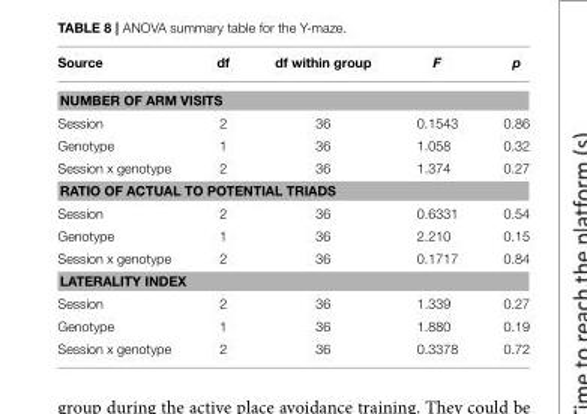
<table><thead><tr><td>Source</td><td>df</td><td>df within group</td><td>F</td><td>p</td></tr></thead><tbody><tr><td colspan="5">NUMBER OF ARM VISITS</td></tr><tr><td>Session</td><td>2</td><td>36</td><td>0.1543</td><td>0.86</td></tr><tr><td>Genotype</td><td>1</td><td>36</td><td>1.058</td><td>0.32</td></tr><tr><td>Session x genotype</td><td>2</td><td>36</td><td>1.374</td><td>0.27</td></tr><tr><td colspan="5">RATIO OF ACTUAL TO POTENTIAL TRIADS</td></tr><tr><td>Session</td><td>2</td><td>36</td><td>0.6331</td><td>0.54</td></tr><tr><td>Genotype</td><td>1</td><td>36</td><td>2.210</td><td>0.15</td></tr><tr><td>Session x genotype</td><td>2</td><td>36</td><td>0.1717</td><td>0.84</td></tr><tr><td colspan="5">LATERALITY INDEX</td></tr><tr><td>Session</td><td>2</td><td>36</td><td>1.339</td><td>0.27</td></tr><tr><td>Genotype</td><td>1</td><td>36</td><td>1.880</td><td>0.19</td></tr><tr><td>Session x genotype</td><td>2</td><td>36</td><td>0.3378</td><td>0.72</td></tr></tbody></table>